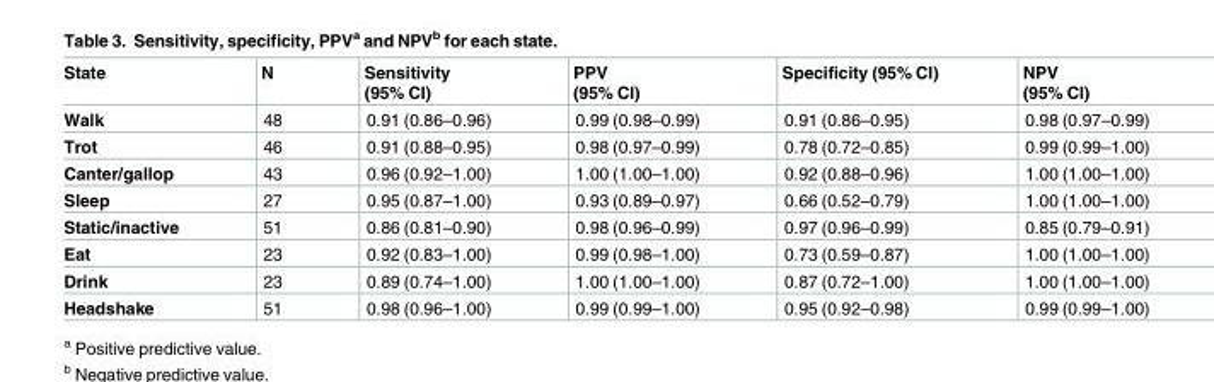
<table><thead><tr><td>State</td><td>N</td><td>Sensitivity (95% CI)</td><td>PPV (95% CI)</td><td>Specificity (95% CI)</td><td>NPV (95% CI)</td></tr></thead><tbody><tr><td>Walk</td><td>48</td><td>0.91 (0.86–0.96)</td><td>0.99 (0.98–0.99)</td><td>0.91 (0.86–0.95)</td><td>0.98 (0.97–0.99)</td></tr><tr><td>Trot</td><td>46</td><td>0.91 (0.88–0.95)</td><td>0.98 (0.97–0.99)</td><td>0.78 (0.72–0.85)</td><td>0.99 (0.99–1.00)</td></tr><tr><td>Canter/gallop</td><td>43</td><td>0.96 (0.92–1.00)</td><td>1.00 (1.00–1.00)</td><td>0.92 (0.88–0.96)</td><td>1.00 (1.00–1.00)</td></tr><tr><td>Sleep</td><td>27</td><td>0.95 (0.87–1.00)</td><td>0.93 (0.89–0.97)</td><td>0.66 (0.52–0.79)</td><td>1.00 (1.00–1.00)</td></tr><tr><td>Static/inactive</td><td>51</td><td>0.86 (0.81–0.90)</td><td>0.98 (0.96–0.99)</td><td>0.97 (0.96–0.99)</td><td>0.85 (0.79–0.91)</td></tr><tr><td>Eat</td><td>23</td><td>0.92 (0.83–1.00)</td><td>0.99 (0.98–1.00)</td><td>0.73 (0.59–0.87)</td><td>1.00 (1.00–1.00)</td></tr><tr><td>Drink</td><td>23</td><td>0.89 (0.74–1.00)</td><td>1.00 (1.00–1.00)</td><td>0.87 (0.72–1.00)</td><td>1.00 (1.00–1.00)</td></tr><tr><td>Headshake</td><td>51</td><td>0.98 (0.96–1.00)</td><td>0.99 (0.99–1.00)</td><td>0.95 (0.92–0.98)</td><td>0.99 (0.99–1.00)</td></tr></tbody></table>